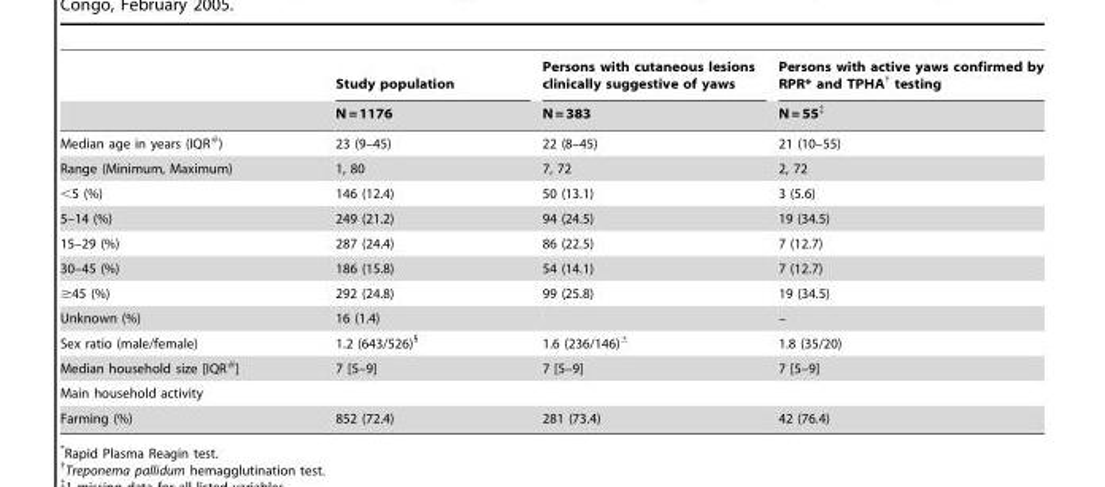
<table><thead><tr><td rowspan="2"></td><td rowspan="2">Study population N = 1176</td><td rowspan="2">Persons with cutaneous lesions clinically suggestive of yaws N = 383</td><td rowspan="2">Persons with active yaws confirmed by RPR* and TPHA† testing N = 55‡</td></tr><tr></tr></thead><tbody><tr><td>Median age in years (IQR#)</td><td>23 (9–45)</td><td>22 (8–45)</td><td>21 (10–55)</td></tr><tr><td>Range (Minimum, Maximum)</td><td>1, 80</td><td>7, 72</td><td>2, 72</td></tr><tr><td>&lt;5 (%)</td><td>146 (12.4)</td><td>50 (13.1)</td><td>3 (5.6)</td></tr><tr><td>5–14 (%)</td><td>249 (21.2)</td><td>94 (24.5)</td><td>19 (34.5)</td></tr><tr><td>15–29 (%)</td><td>287 (24.4)</td><td>86 (22.5)</td><td>7 (12.7)</td></tr><tr><td>30–45 (%)</td><td>186 (15.8)</td><td>54 (14.1)</td><td>7 (12.7)</td></tr><tr><td>≥45 (%)</td><td>292 (24.8)</td><td>99 (25.8)</td><td>19 (34.5)</td></tr><tr><td>Unknown (%)</td><td>16 (1.4)</td><td></td><td>–</td></tr><tr><td>Sex ratio (male/female)</td><td>1.2 (643/526)§</td><td>1.6 (236/146)±</td><td>1.8 (35/20)</td></tr><tr><td>Median household size [IQR#]</td><td>7 [5–9]</td><td>7 [5–9]</td><td>7 [5–9]</td></tr><tr><td colspan="4">Main household activity</td></tr><tr><td>Farming (%)</td><td>852 (72.4)</td><td>281 (73.4)</td><td>42 (76.4)</td></tr></tbody></table>